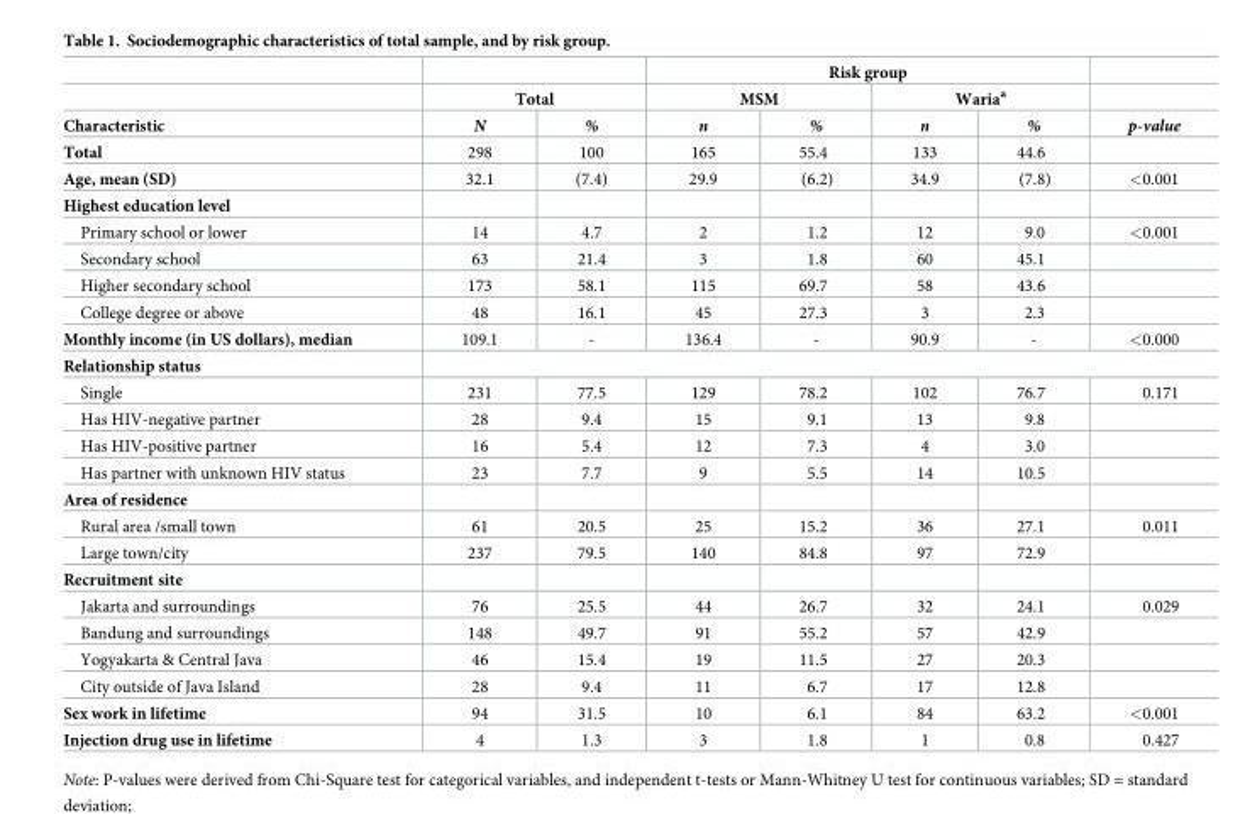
<table><thead><tr><td rowspan="3">Characteristic</td><td></td><td></td><td colspan="4">Risk group</td><td rowspan="3">p-value</td></tr><tr><td colspan="2">Total</td><td colspan="2">MSM</td><td colspan="2">Waria<sup>a</sup></td></tr><tr><td>N</td><td>%</td><td>n</td><td>%</td><td>n</td><td>%</td></tr></thead><tbody><tr><td>Total</td><td>298</td><td>100</td><td>165</td><td>55.4</td><td>133</td><td>44.6</td><td></td></tr><tr><td>Age, mean (SD)</td><td>32.1</td><td>(7.4)</td><td>29.9</td><td>(6.2)</td><td>34.9</td><td>(7.8)</td><td>&lt;0.001</td></tr><tr><td colspan="8">Highest education level</td></tr><tr><td>Primary school or lower</td><td>14</td><td>4.7</td><td>2</td><td>1.2</td><td>12</td><td>9.0</td><td>&lt;0.001</td></tr><tr><td>Secondary school</td><td>63</td><td>21.4</td><td>3</td><td>1.8</td><td>60</td><td>45.1</td><td></td></tr><tr><td>Higher secondary school</td><td>173</td><td>58.1</td><td>115</td><td>69.7</td><td>58</td><td>43.6</td><td></td></tr><tr><td>College degree or above</td><td>48</td><td>16.1</td><td>45</td><td>27.3</td><td>3</td><td>2.3</td><td></td></tr><tr><td>Monthly income (in US dollars), median</td><td>109.1</td><td>-</td><td>136.4</td><td>-</td><td>90.9</td><td>-</td><td>&lt;0.000</td></tr><tr><td colspan="8">Relationship status</td></tr><tr><td>Single</td><td>231</td><td>77.5</td><td>129</td><td>78.2</td><td>102</td><td>76.7</td><td>0.171</td></tr><tr><td>Has HIV-negative partner</td><td>28</td><td>9.4</td><td>15</td><td>9.1</td><td>13</td><td>9.8</td><td></td></tr><tr><td>Has HIV-positive partner</td><td>16</td><td>5.4</td><td>12</td><td>7.3</td><td>4</td><td>3.0</td><td></td></tr><tr><td>Has partner with unknown HIV status</td><td>23</td><td>7.7</td><td>9</td><td>5.5</td><td>14</td><td>10.5</td><td></td></tr><tr><td colspan="8">Area of residence</td></tr><tr><td>Rural area /small town</td><td>61</td><td>20.5</td><td>25</td><td>15.2</td><td>36</td><td>27.1</td><td>0.011</td></tr><tr><td>Large town/city</td><td>237</td><td>79.5</td><td>140</td><td>84.8</td><td>97</td><td>72.9</td><td></td></tr><tr><td colspan="8">Recruitment site</td></tr><tr><td>Jakarta and surroundings</td><td>76</td><td>25.5</td><td>44</td><td>26.7</td><td>32</td><td>24.1</td><td>0.029</td></tr><tr><td>Bandung and surroundings</td><td>148</td><td>49.7</td><td>91</td><td>55.2</td><td>57</td><td>42.9</td><td></td></tr><tr><td>Yogyakarta &amp; Central Java</td><td>46</td><td>15.4</td><td>19</td><td>11.5</td><td>27</td><td>20.3</td><td></td></tr><tr><td>City outside of Java Island</td><td>28</td><td>9.4</td><td>11</td><td>6.7</td><td>17</td><td>12.8</td><td></td></tr><tr><td>Sex work in lifetime</td><td>94</td><td>31.5</td><td>10</td><td>6.1</td><td>84</td><td>63.2</td><td>&lt;0.001</td></tr><tr><td>Injection drug use in lifetime</td><td>4</td><td>1.3</td><td>3</td><td>1.8</td><td>1</td><td>0.8</td><td>0.427</td></tr></tbody></table>